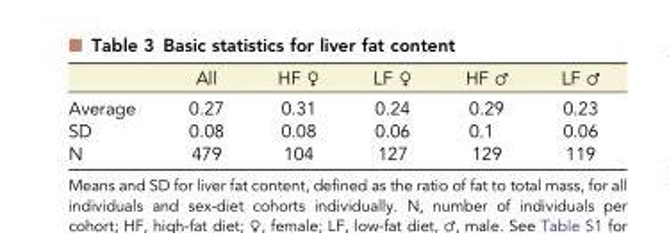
<table><thead><tr><td></td><td>All</td><td>HF ♀</td><td>LF ♀</td><td>HF ♂</td><td>LF ♂</td></tr></thead><tbody><tr><td>Average</td><td>0.27</td><td>0.31</td><td>0.24</td><td>0.29</td><td>0.23</td></tr><tr><td>SD</td><td>0.08</td><td>0.08</td><td>0.06</td><td>0.1</td><td>0.06</td></tr><tr><td>N</td><td>479</td><td>104</td><td>127</td><td>129</td><td>119</td></tr></tbody></table>